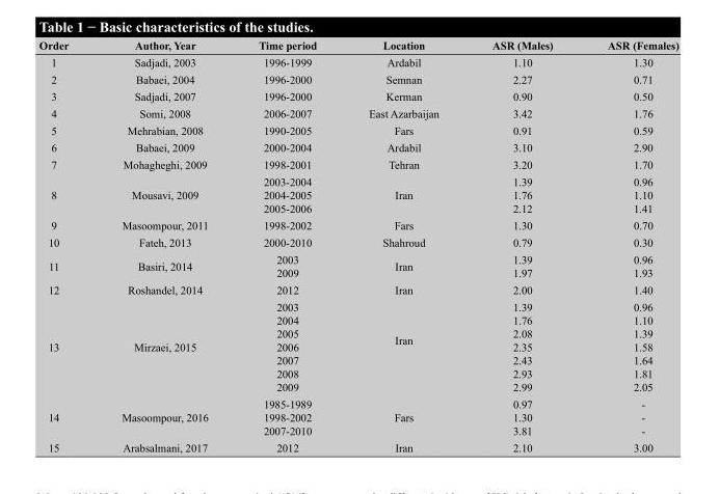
<table><thead><tr><td>Order</td><td>Author, Year</td><td>Time period</td><td>Location</td><td>ASR (Males)</td><td>ASR (Females)</td></tr></thead><tbody><tr><td>1</td><td>Sadjadi, 2003</td><td>1996-1999</td><td>Ardabil</td><td>1.10</td><td>1.30</td></tr><tr><td>2</td><td>Babaei, 2004</td><td>1996-2000</td><td>Semnan</td><td>2.27</td><td>0.71</td></tr><tr><td>3</td><td>Sadjadi, 2007</td><td>1996-2000</td><td>Kerman</td><td>0.90</td><td>0.50</td></tr><tr><td>4</td><td>Somi, 2008</td><td>2006-2007</td><td>East Azarbaijan</td><td>3.42</td><td>1.76</td></tr><tr><td>5</td><td>Mehrabian, 2008</td><td>1990-2005</td><td>Fars</td><td>0.91</td><td>0.59</td></tr><tr><td>6</td><td>Babaei, 2009</td><td>2000-2004</td><td>Ardabil</td><td>3.10</td><td>2.90</td></tr><tr><td>7</td><td>Mohagheghi, 2009</td><td>1998-2001</td><td>Tehran</td><td>3.20</td><td>1.70</td></tr><tr><td>8</td><td>Mousavi, 2009</td><td>2003-2004 2004-2005 2005-2006</td><td>Iran</td><td>1.39 1.76 2.12</td><td>0.96 1.10 1.41</td></tr><tr><td>9</td><td>Masoompour, 2011</td><td>1998-2002</td><td>Fars</td><td>1.30</td><td>0.70</td></tr><tr><td>10</td><td>Fateh, 2013</td><td>2000-2010</td><td>Shahroud</td><td>0.79</td><td>0.30</td></tr><tr><td>11</td><td>Basiri, 2014</td><td>2003 2009</td><td>Iran</td><td>1.39 1.97</td><td>0.96 1.93</td></tr><tr><td>12</td><td>Roshandel, 2014</td><td>2012</td><td>Iran</td><td>2.00</td><td>1.40</td></tr><tr><td>13</td><td>Mirzaei, 2015</td><td>2003 2004 2005 2006 2007 2008 2009</td><td>Iran</td><td>1.39 1.76 2.08 2.35 2.43 2.93 2.99</td><td>0.96 1.10 1.39 1.58 1.64 1.81 2.05</td></tr><tr><td>14</td><td>Masoompour, 2016</td><td>1985-1989 1998-2002 2007-2010</td><td>Fars</td><td>0.97 1.30 3.81</td><td>- - -</td></tr><tr><td>15</td><td>Arabsalmani, 2017</td><td>2012</td><td>Iran</td><td>2.10</td><td>3.00</td></tr></tbody></table>